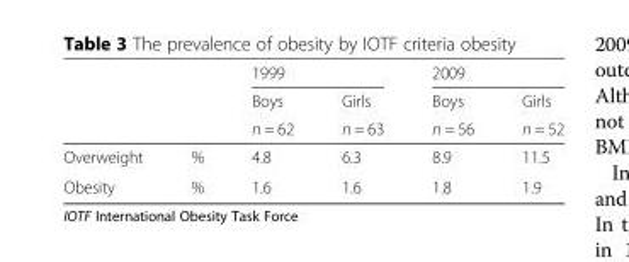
<table><thead><tr><td rowspan="3"></td><td rowspan="3"></td><td colspan="2">1999</td><td colspan="2">2009</td></tr><tr><td rowspan="2">Boys n = 62</td><td rowspan="2">Girls n = 63</td><td rowspan="2">Boys n = 56</td><td rowspan="2">Girls n = 52</td></tr><tr></tr></thead><tbody><tr><td>Overweight</td><td>%</td><td>4.8</td><td>6.3</td><td>8.9</td><td>11.5</td></tr><tr><td>Obesity</td><td>%</td><td>1.6</td><td>1.6</td><td>1.8</td><td>1.9</td></tr></tbody></table>